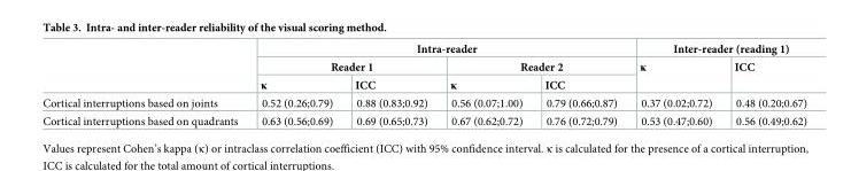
<table><thead><tr><td rowspan="3"></td><td colspan="4">Intra-reader</td><td colspan="2">Inter-reader (reading 1)</td></tr><tr><td colspan="2">Reader 1</td><td colspan="2">Reader 2</td><td rowspan="2">κ</td><td rowspan="2">ICC</td></tr><tr><td>κ</td><td>ICC</td><td>κ</td><td>ICC</td></tr></thead><tbody><tr><td>Cortical interruptions based on joints</td><td>0.52 (0.26;0.79)</td><td>0.88 (0.83;0.92)</td><td>0.56 (0.07;1.00)</td><td>0.79 (0.66;0.87)</td><td>0.37 (0.02;0.72)</td><td>0.48 (0.20;0.67)</td></tr><tr><td>Cortical interruptions based on quadrants</td><td>0.63 (0.56;0.69)</td><td>0.69 (0.65;0.73)</td><td>0.67 (0.62;0.72)</td><td>0.76 (0.72;0.79)</td><td>0.53 (0.47;0.60)</td><td>0.56 (0.49;0.62)</td></tr></tbody></table>